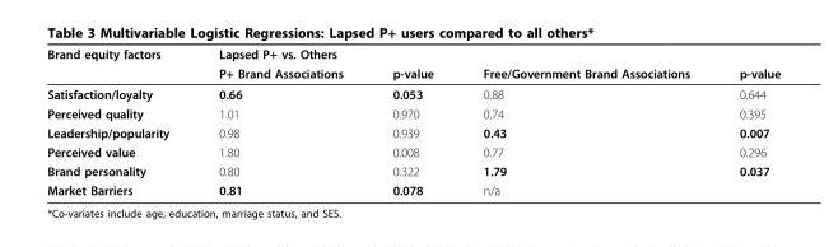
<table><thead><tr><td rowspan="2">Brand equity factors</td><td colspan="4">Lapsed P+ vs. Others</td></tr><tr><td>P+ Brand Associations</td><td>p-value</td><td>Free/Government Brand Associations</td><td>p-value</td></tr></thead><tbody><tr><td>Satisfaction/loyalty</td><td>0.66</td><td>0.053</td><td>0.88</td><td>0.644</td></tr><tr><td>Perceived quality</td><td>1.01</td><td>0.970</td><td>0.74</td><td>0.395</td></tr><tr><td>Leadership/popularity</td><td>0.98</td><td>0.939</td><td>0.43</td><td>0.007</td></tr><tr><td>Perceived value</td><td>1.80</td><td>0.008</td><td>0.77</td><td>0.296</td></tr><tr><td>Brand personality</td><td>0.80</td><td>0.322</td><td>1.79</td><td>0.037</td></tr><tr><td>Market Barriers</td><td>0.81</td><td>0.078</td><td colspan="2">n/a</td></tr></tbody></table>